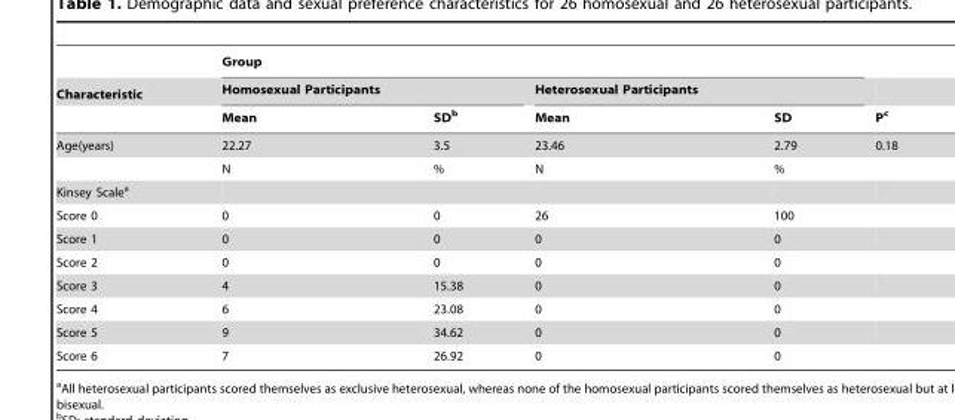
<table><thead><tr><td rowspan="3">Characteristic</td><td colspan="4">Group</td><td rowspan="3">P<sup>c</sup></td></tr><tr><td colspan="2">Homosexual Participants</td><td colspan="2">Heterosexual Participants</td></tr><tr><td>Mean</td><td>SD<sup>b</sup></td><td>Mean</td><td>SD</td></tr></thead><tbody><tr><td rowspan="2">Age(years)</td><td>22.27</td><td>3.5</td><td>23.46</td><td>2.79</td><td>0.18</td></tr><tr><td>N</td><td>%</td><td>N</td><td>%</td><td></td></tr><tr><td colspan="6">Kinsey Scale<sup>a</sup></td></tr><tr><td>Score 0</td><td>0</td><td>0</td><td>26</td><td>100</td><td></td></tr><tr><td>Score 1</td><td>0</td><td>0</td><td>0</td><td>0</td><td></td></tr><tr><td>Score 2</td><td>0</td><td>0</td><td>0</td><td>0</td><td></td></tr><tr><td>Score 3</td><td>4</td><td>15.38</td><td>0</td><td>0</td><td></td></tr><tr><td>Score 4</td><td>6</td><td>23.08</td><td>0</td><td>0</td><td></td></tr><tr><td>Score 5</td><td>9</td><td>34.62</td><td>0</td><td>0</td><td></td></tr><tr><td>Score 6</td><td>7</td><td>26.92</td><td>0</td><td>0</td><td></td></tr></tbody></table>